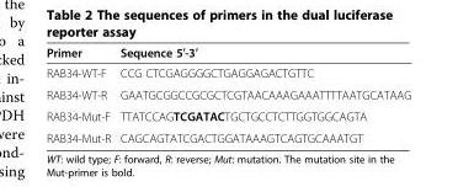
<table><thead><tr><td>Primer</td><td>Sequence 5′-3′</td></tr></thead><tbody><tr><td>RAB34-WT-F</td><td>CCG CTCGAGGGGCTGAGGAGACTGTTC</td></tr><tr><td>RAB34-WT-R</td><td>GAATGCGGCCGCGCTCGTAACAAAGAAATTTTAATGCATAAG</td></tr><tr><td>RAB34-Mut-F</td><td>TTATCCAGTCGATACTGCTGCCTCTTGGTGGCAGTA</td></tr><tr><td>RAB34-Mut-R</td><td>CAGCAGTATCGACTGGATAAAGTCAGTGCAAATGT</td></tr></tbody></table>